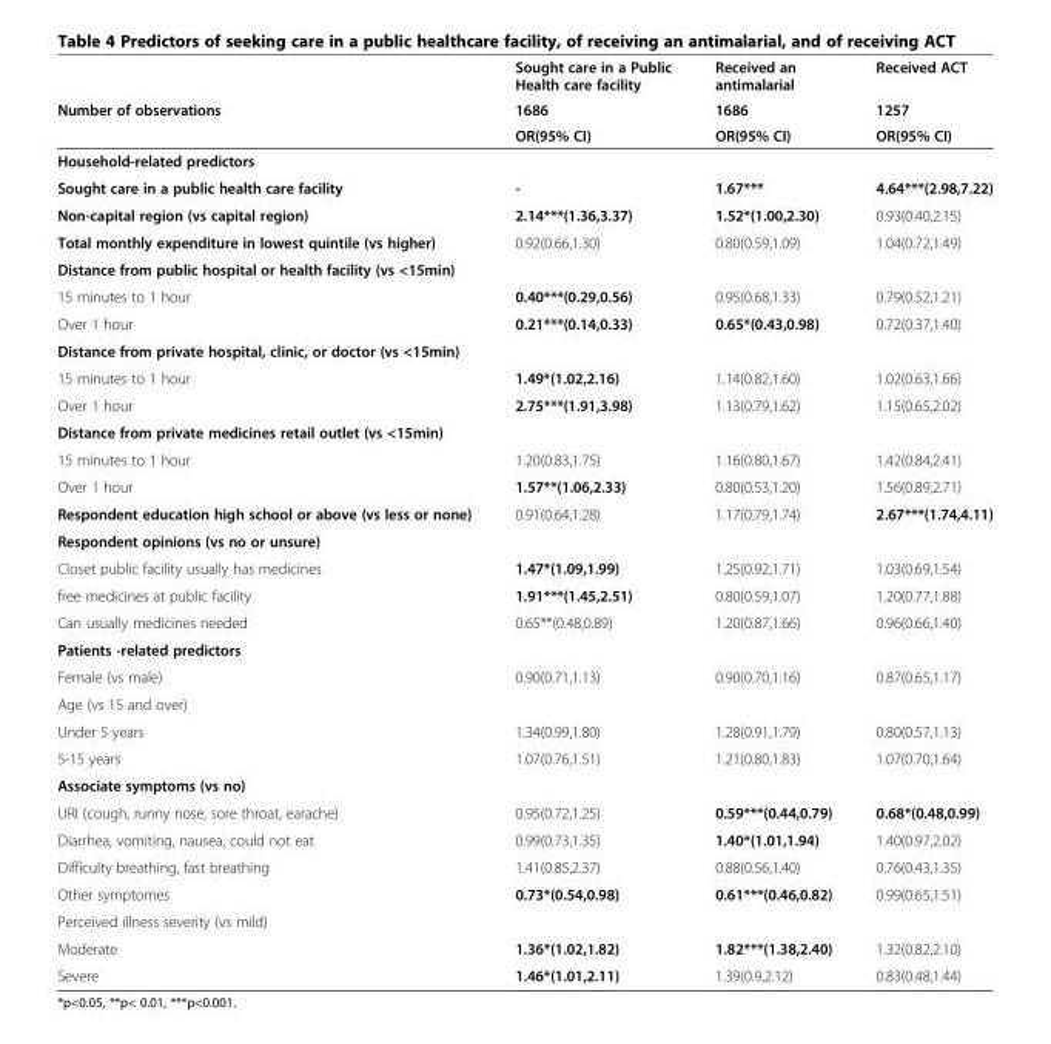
<table><thead><tr><td rowspan="3">Number of observations</td><td rowspan="3">Sought care in a Public Health care facility 1686 OR(95% CI)</td><td rowspan="3">Received an antimalarial 1686 OR(95% CI)</td><td rowspan="3">Received ACT 1257 OR(95% CI)</td></tr><tr></tr><tr></tr></thead><tbody><tr><td colspan="4">Household-related predictors</td></tr><tr><td>Sought care in a public health care facility</td><td>-</td><td>1.67***</td><td>4.64***(2.98,7.22)</td></tr><tr><td>Non-capital region (vs capital region)</td><td>2.14***(1.36,3.37)</td><td>1.52*(1.00,2.30)</td><td>0.93(0.40,2.15)</td></tr><tr><td>Total monthly expenditure in lowest quintile (vs higher)</td><td>0.92(0.66,1.30)</td><td>0.80(0.59,1.09)</td><td>1.04(0.72,1.49)</td></tr><tr><td colspan="4">Distance from public hospital or health facility (vs &lt;15min)</td></tr><tr><td>15 minutes to 1 hour</td><td>0.40***(0.29,0.56)</td><td>0.95(0.68,1.33)</td><td>0.79(0.52,1.21)</td></tr><tr><td>Over 1 hour</td><td>0.21***(0.14,0.33)</td><td>0.65*(0.43,0.98)</td><td>0.72(0.37,1.40)</td></tr><tr><td colspan="4">Distance from private hospital, clinic, or doctor (vs &lt;15min)</td></tr><tr><td>15 minutes to 1 hour</td><td>1.49*(1.02,2.16)</td><td>1.14(0.82,1.60)</td><td>1.02(0.63,1.66)</td></tr><tr><td>Over 1 hour</td><td>2.75***(1.91,3.98)</td><td>1.13(0.79,1.62)</td><td>1.15(0.65,2.02)</td></tr><tr><td colspan="4">Distance from private medicines retail outlet (vs &lt;15min)</td></tr><tr><td>15 minutes to 1 hour</td><td>1.20(0.83,1.75)</td><td>1.16(0.80,1.67)</td><td>1.42(0.84,2.41)</td></tr><tr><td>Over 1 hour</td><td>1.57**(1.06,2.33)</td><td>0.80(0.53,1.20)</td><td>1.56(0.89,2.71)</td></tr><tr><td>Respondent education high school or above (vs less or none)</td><td>0.91(0.64,1.28)</td><td>1.17(0.79,1.74)</td><td>2.67***(1.74,4.11)</td></tr><tr><td colspan="4">Respondent opinions (vs no or unsure)</td></tr><tr><td>Closet public facility usually has medicines</td><td>1.47*(1.09,1.99)</td><td>1.25(0.92,1.71)</td><td>1.03(0.69,1.54)</td></tr><tr><td>free medicines at public facility</td><td>1.91***(1.45,2.51)</td><td>0.80(0.59,1.07)</td><td>1.20(0.77,1.88)</td></tr><tr><td>Can usually medicines needed</td><td>0.65**(0.48,0.89)</td><td>1.20(0.87,1.66)</td><td>0.96(0.66,1.40)</td></tr><tr><td colspan="4">Patients -related predictors</td></tr><tr><td>Female (vs male)</td><td>0.90(0.71,1.13)</td><td>0.90(0.70,1.16)</td><td>0.87(0.65,1.17)</td></tr><tr><td colspan="4">Age (vs 15 and over)</td></tr><tr><td>Under 5 years</td><td>1.34(0.99,1.80)</td><td>1.28(0.91,1.79)</td><td>0.80(0.57,1.13)</td></tr><tr><td>5-15 years</td><td>1.07(0.76,1.51)</td><td>1.21(0.80,1.83)</td><td>1.07(0.70,1.64)</td></tr><tr><td colspan="4">Associate symptoms (vs no)</td></tr><tr><td>URI (cough, runny nose, sore throat, earache)</td><td>0.95(0.72,1.25)</td><td>0.59***(0.44,0.79)</td><td>0.68*(0.48,0.99)</td></tr><tr><td>Diarrhea, vomiting, nausea, could not eat</td><td>0.99(0.73,1.35)</td><td>1.40*(1.01,1.94)</td><td>1.40(0.97,2.02)</td></tr><tr><td>Difficulty breathing, fast breathing</td><td>1.41(0.85,2.37)</td><td>0.88(0.56,1.40)</td><td>0.76(0.43,1.35)</td></tr><tr><td>Other symptomes</td><td>0.73*(0.54,0.98)</td><td>0.61***(0.46,0.82)</td><td>0.99(0.65,1.51)</td></tr><tr><td colspan="4">Perceived illness severity (vs mild)</td></tr><tr><td>Moderate</td><td>1.36*(1.02,1.82)</td><td>1.82***(1.38,2.40)</td><td>1.32(0.82,2.10)</td></tr><tr><td>Severe</td><td>1.46*(1.01,2.11)</td><td>1.39(0.9,2.12)</td><td>0.83(0.48,1.44)</td></tr></tbody></table>